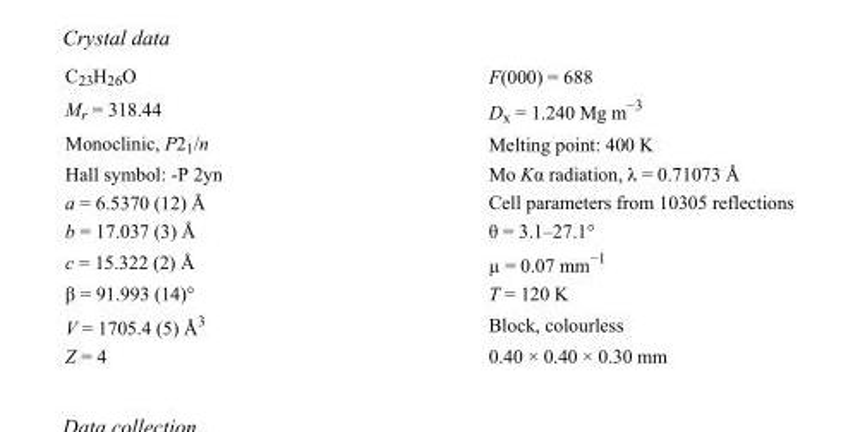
<table><tbody><tr><td>C<sub>23</sub>H<sub>26</sub>O</td><td>F(000) = 688</td></tr><tr><td>M<sub>r</sub> = 318.44</td><td>D<sub>x</sub> = 1.240 Mg m<sup>−3</sup></td></tr><tr><td>Monoclinic, P2<sub>1</sub>/n</td><td>Melting point: 400 K</td></tr><tr><td>Hall symbol: -P 2yn</td><td>Mo Kα radiation, λ = 0.71073 Å</td></tr><tr><td>a = 6.5370 (12) Å</td><td>Cell parameters from 10305 reflections</td></tr><tr><td>b = 17.037 (3) Å</td><td>θ = 3.1–27.1°</td></tr><tr><td>c = 15.322 (2) Å</td><td>µ = 0.07 mm<sup>−1</sup></td></tr><tr><td>β = 91.993 (14)°</td><td>T = 120 K</td></tr><tr><td>V = 1705.4 (5) Å<sup>3</sup></td><td>Block, colourless</td></tr><tr><td>Z = 4</td><td>0.40 × 0.40 × 0.30 mm</td></tr></tbody></table>